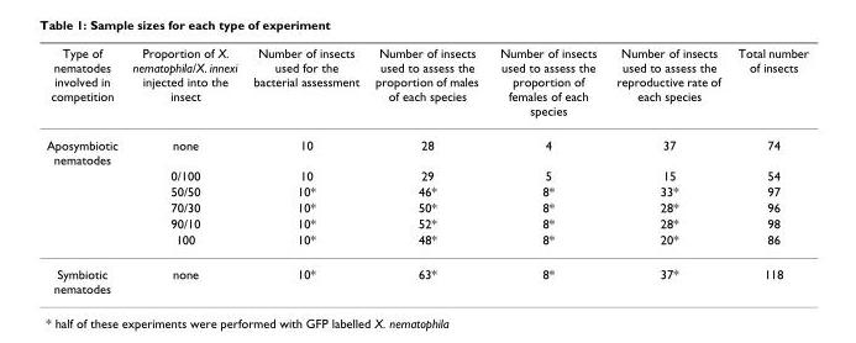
<table><thead><tr><td>Type of nematodes involved in competition</td><td>Proportion of X. nematophila/X. innexi injected into the insect</td><td>Number of insects used for the bacterial assessment</td><td>Number of insects used to assess the proportion of males of each species</td><td>Number of insects used to assess the proportion of females of each species</td><td>Number of insects used to assess the reproductive rate of each species</td><td>Total number of insects</td></tr></thead><tbody><tr><td rowspan="6">Aposymbiotic nematodes</td><td>none</td><td>10</td><td>28</td><td>4</td><td>37</td><td>74</td></tr><tr><td>0/100</td><td>10</td><td>29</td><td>5</td><td>15</td><td>54</td></tr><tr><td>50/50</td><td>10*</td><td>46*</td><td>8*</td><td>33*</td><td>97</td></tr><tr><td>70/30</td><td>10*</td><td>50*</td><td>8*</td><td>28*</td><td>96</td></tr><tr><td>90/10</td><td>10*</td><td>52*</td><td>8*</td><td>28*</td><td>98</td></tr><tr><td>100</td><td>10*</td><td>48*</td><td>8*</td><td>20*</td><td>86</td></tr><tr><td>Symbiotic nematodes</td><td>none</td><td>10*</td><td>63*</td><td>8*</td><td>37*</td><td>118</td></tr></tbody></table>